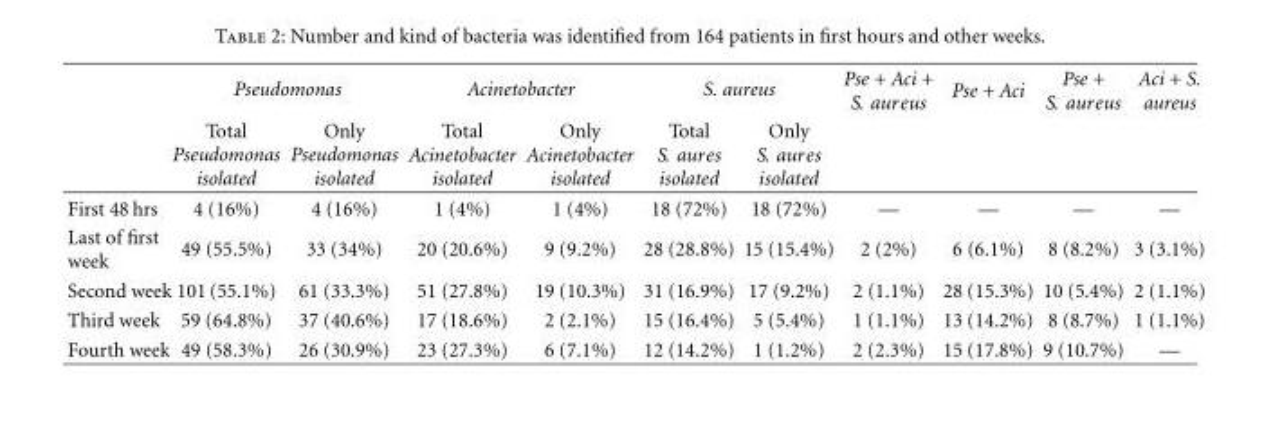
<table><thead><tr><td rowspan="2"></td><td colspan="2">Pseudomonas</td><td colspan="2">Acinetobacter</td><td colspan="2">S. aureus</td><td rowspan="2">Pse + Aci + S. aureus</td><td rowspan="2">Pse + Aci</td><td rowspan="2">Pse + S. aureus</td><td rowspan="2">Aci + S. aureus</td></tr><tr><td>Total Pseudomonas isolated</td><td>Only Pseudomonas isolated</td><td>Total Acinetobacter isolated</td><td>Only Acinetobacter isolated</td><td>Total S. aures isolated</td><td>Only S. aures isolated</td></tr></thead><tbody><tr><td>First 48 hrs</td><td>4 (16%)</td><td>4 (16%)</td><td>1 (4%)</td><td>1 (4%)</td><td>18 (72%)</td><td>18 (72%)</td><td>—</td><td>—</td><td>—</td><td>—</td></tr><tr><td>Last of first week</td><td>49 (55.5%)</td><td>33 (34%)</td><td>20 (20.6%)</td><td>9 (9.2%)</td><td>28 (28.8%)</td><td>15 (15.4%)</td><td>2 (2%)</td><td>6 (6.1%)</td><td>8 (8.2%)</td><td>3 (3.1%)</td></tr><tr><td>Second week</td><td>101 (55.1%)</td><td>61 (33.3%)</td><td>51 (27.8%)</td><td>19 (10.3%)</td><td>31 (16.9%)</td><td>17 (9.2%)</td><td>2 (1.1%)</td><td>28 (15.3%)</td><td>10 (5.4%)</td><td>2 (1.1%)</td></tr><tr><td>Third week</td><td>59 (64.8%)</td><td>37 (40.6%)</td><td>17 (18.6%)</td><td>2 (2.1%)</td><td>15 (16.4%)</td><td>5 (5.4%)</td><td>1 (1.1%)</td><td>13 (14.2%)</td><td>8 (8.7%)</td><td>1 (1.1%)</td></tr><tr><td>Fourth week</td><td>49 (58.3%)</td><td>26 (30.9%)</td><td>23 (27.3%)</td><td>6 (7.1%)</td><td>12 (14.2%)</td><td>1 (1.2%)</td><td>2 (2.3%)</td><td>15 (17.8%)</td><td>9 (10.7%)</td><td>—</td></tr></tbody></table>